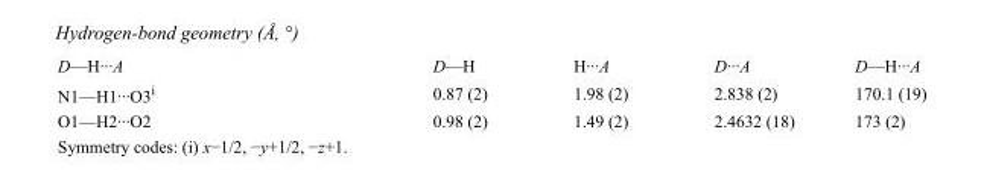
<table><tbody><tr><td>D—H···A</td><td>D—H</td><td>H···A</td><td>D···A</td><td>D—H···A</td></tr><tr><td>N1—H1···O3<sup>i</sup></td><td>0.87 (2)</td><td>1.98 (2)</td><td>2.838 (2)</td><td>170.1 (19)</td></tr><tr><td>O1—H2···O2</td><td>0.98 (2)</td><td>1.49 (2)</td><td>2.4632 (18)</td><td>173 (2)</td></tr></tbody></table>